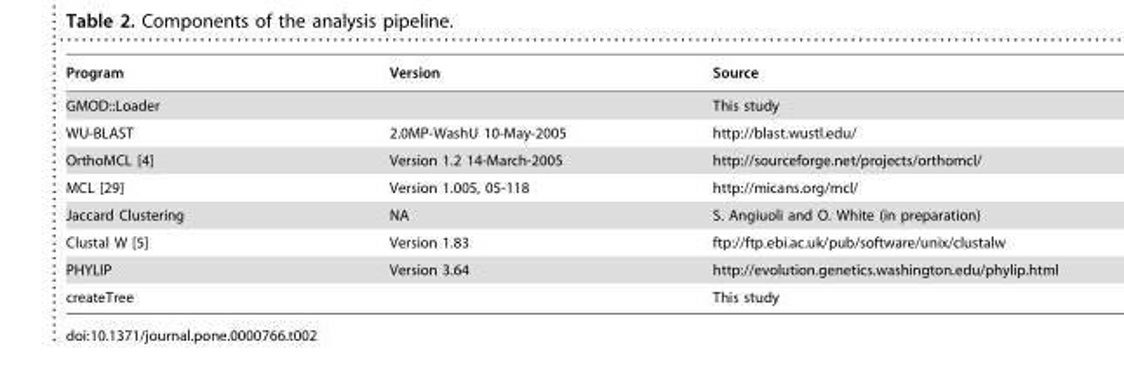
<table><thead><tr><td>Program</td><td>Version</td><td>Source</td></tr></thead><tbody><tr><td>GMOD::Loader</td><td></td><td>This study</td></tr><tr><td>WU-BLAST</td><td>2.0MP-WashU 10-May-2005</td><td>http://blast.wustl.edu/</td></tr><tr><td>OrthoMCL [4]</td><td>Version 1.2 14-March-2005</td><td>http://sourceforge.net/projects/orthomcl/</td></tr><tr><td>MCL [29]</td><td>Version 1.005, 05-118</td><td>http://micans.org/mcl/</td></tr><tr><td>Jaccard Clustering</td><td>NA</td><td>S. Angiuoli and O. White (in preparation)</td></tr><tr><td>Clustal W [5]</td><td>Version 1.83</td><td>ftp://ftp.ebi.ac.uk/pub/software/unix/clustalw</td></tr><tr><td>PHYLIP</td><td>Version 3.64</td><td>http://evolution.genetics.washington.edu/phylip.html</td></tr><tr><td>createTree</td><td></td><td>This study</td></tr></tbody></table>